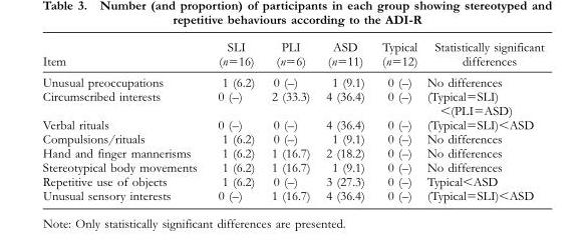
<table><thead><tr><td>Item</td><td>SLI (n=16)</td><td>PLI (n=6)</td><td>ASD (n=11)</td><td>Typical (n=12)</td><td>Statistically significant differences</td></tr></thead><tbody><tr><td>Unusual preoccupations</td><td>1 (6.2)</td><td>0 (–)</td><td>1 (9.1)</td><td>0 (–)</td><td>No differences</td></tr><tr><td>Circumscribed interests</td><td>0 (–)</td><td>2 (33.3)</td><td>4 (36.4)</td><td>0 (–)</td><td>(Typical=SLI) &lt;(PLI=ASD)</td></tr><tr><td>Verbal rituals</td><td>0 (–)</td><td>0 (–)</td><td>4 (36.4)</td><td>0 (–)</td><td>(Typical=SLI)&lt;ASD</td></tr><tr><td>Compulsions/rituals</td><td>1 (6.2)</td><td>0 (–)</td><td>1 (9.1)</td><td>0 (–)</td><td>No differences</td></tr><tr><td>Hand and finger mannerisms</td><td>1 (6.2)</td><td>1 (16.7)</td><td>2 (18.2)</td><td>0 (–)</td><td>No differences</td></tr><tr><td>Stereotypical body movements</td><td>1 (6.2)</td><td>1 (16.7)</td><td>1 (9.1)</td><td>0 (–)</td><td>No differences</td></tr><tr><td>Repetitive use of objects</td><td>1 (6.2)</td><td>0 (–)</td><td>3 (27.3)</td><td>0 (–)</td><td>Typical&lt;ASD</td></tr><tr><td>Unusual sensory interests</td><td>0 (–)</td><td>1 (16.7)</td><td>4 (36.4)</td><td>0 (–)</td><td>(Typical=SLI)&lt;ASD</td></tr></tbody></table>